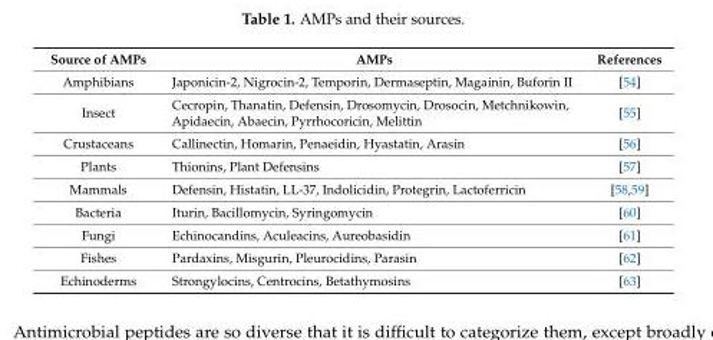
<table><thead><tr><td>Source of AMPs</td><td>AMPs</td><td>References</td></tr></thead><tbody><tr><td>Amphibians</td><td>Japonicin-2, Nigrocin-2, Temporin, Dermaseptin, Magainin, Buforin II</td><td>[54]</td></tr><tr><td>Insect</td><td>Cecropin, Thanatin, Defensin, Drosomycin, Drosocin, Metchnikowin, Apidaecin, Abaecin, Pyrrhocoricin, Melittin</td><td>[55]</td></tr><tr><td>Crustaceans</td><td>Callinectin, Homarin, Penaeidin, Hyastatin, Arasin</td><td>[56]</td></tr><tr><td>Plants</td><td>Thionins, Plant Defensins</td><td>[57]</td></tr><tr><td>Mammals</td><td>Defensin, Histatin, LL-37, Indolicidin, Protegrin, Lactoferricin</td><td>[58,59]</td></tr><tr><td>Bacteria</td><td>Iturin, Bacillomycin, Syringomycin</td><td>[60]</td></tr><tr><td>Fungi</td><td>Echinocandins, Aculeacins, Aureobasidin</td><td>[61]</td></tr><tr><td>Fishes</td><td>Pardaxins, Misgurin, Pleurocidins, Parasin</td><td>[62]</td></tr><tr><td>Echinoderms</td><td>Strongylocins, Centrocins, Betathymosins</td><td>[63]</td></tr></tbody></table>